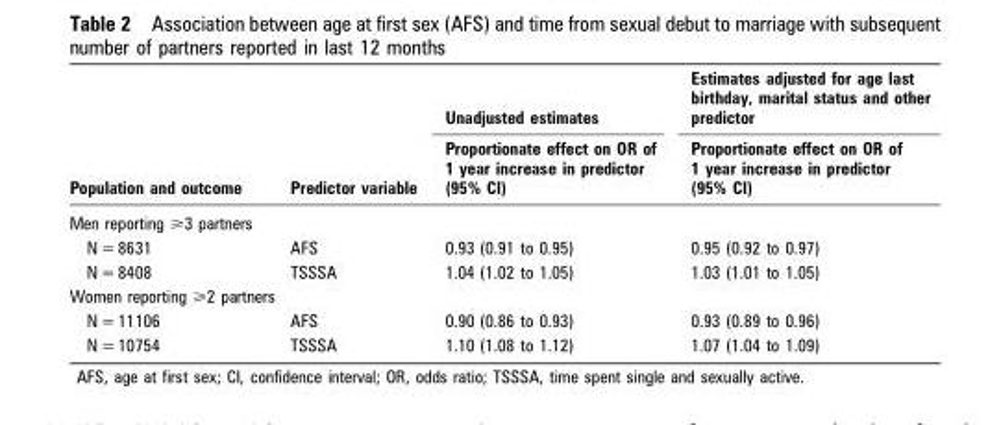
<table><thead><tr><td rowspan="2">Population and outcome</td><td rowspan="2">Predictor variable</td><td rowspan="2">Unadjusted estimates Proportionate effect on OR of 1 year increase in predictor (95% CI)</td><td rowspan="2">Estimates adjusted for age last birthday, marital status and other predictor Proportionate effect on OR of 1 year increase in predictor (95% CI)</td></tr><tr></tr></thead><tbody><tr><td colspan="4">Men reporting &gt;3 partners</td></tr><tr><td>N = 8631</td><td>AFS</td><td>0.93 (0.91 to 0.95)</td><td>0.95 (0.92 to 0.97)</td></tr><tr><td>N = 8408</td><td>TSSSA</td><td>1.04 (1.02 to 1.05)</td><td>1.03 (1.01 to 1.05)</td></tr><tr><td colspan="4">Women reporting &gt;2 partners</td></tr><tr><td>N = 11106</td><td>AFS</td><td>0.90 (0.86 to 0.93)</td><td>0.93 (0.89 to 0.96)</td></tr><tr><td>N = 10754</td><td>TSSSA</td><td>1.10 (1.08 to 1.12)</td><td>1.07 (1.04 to 1.09)</td></tr></tbody></table>